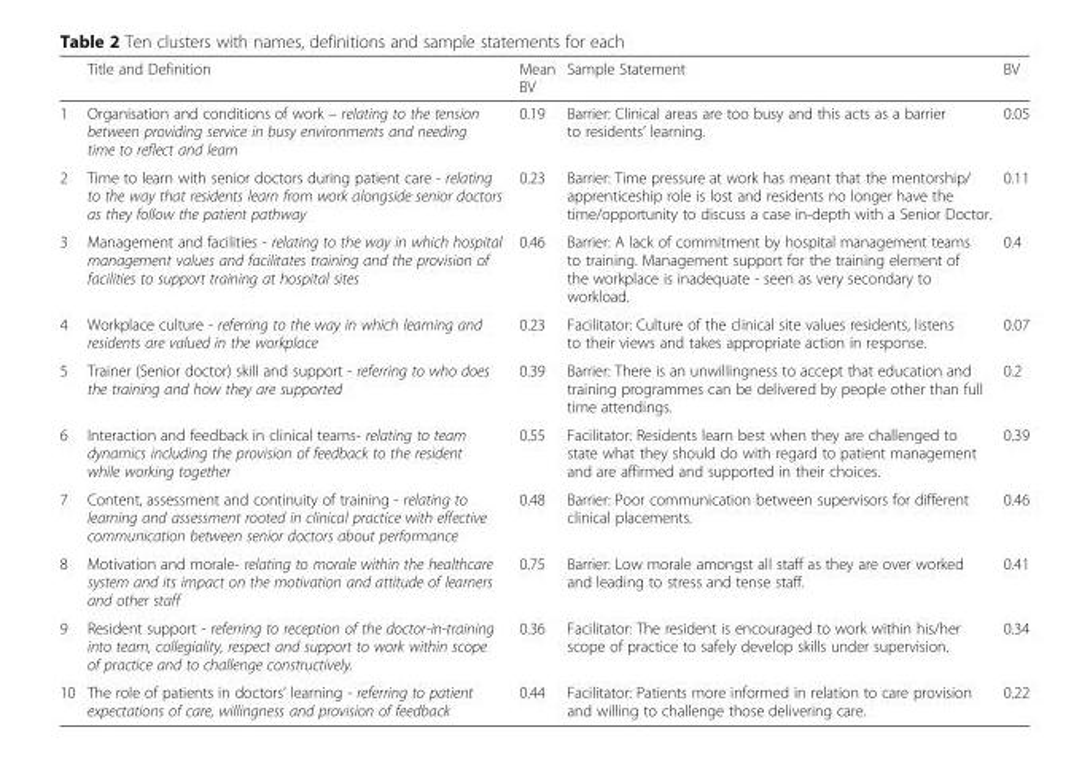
<table><thead><tr><td></td><td>Title and Definition</td><td>Mean BV</td><td>Sample Statement</td><td>BV</td></tr></thead><tbody><tr><td>1</td><td>Organisation and conditions of work – relating to the tension between providing service in busy environments and needing time to reflect and learn</td><td>0.19</td><td>Barrier: Clinical areas are too busy and this acts as a barrier to residents’ learning.</td><td>0.05</td></tr><tr><td>2</td><td>Time to learn with senior doctors during patient care - relating to the way that residents learn from work alongside senior doctors as they follow the patient pathway</td><td>0.23</td><td>Barrier: Time pressure at work has meant that the mentorship/ apprenticeship role is lost and residents no longer have the time/opportunity to discuss a case in-depth with a Senior Doctor.</td><td>0.11</td></tr><tr><td>3</td><td>Management and facilities - relating to the way in which hospital management values and facilitates training and the provision of facilities to support training at hospital sites</td><td>0.46</td><td>Barrier: A lack of commitment by hospital management teams to training. Management support for the training element of the workplace is inadequate - seen as very secondary to workload.</td><td>0.4</td></tr><tr><td>4</td><td>Workplace culture - referring to the way in which learning and residents are valued in the workplace</td><td>0.23</td><td>Facilitator: Culture of the clinical site values residents, listens to their views and takes appropriate action in response.</td><td>0.07</td></tr><tr><td>5</td><td>Trainer (Senior doctor) skill and support - referring to who does the training and how they are supported</td><td>0.39</td><td>Barrier: There is an unwillingness to accept that education and training programmes can be delivered by people other than full time attendings.</td><td>0.2</td></tr><tr><td>6</td><td>Interaction and feedback in clinical teams- relating to team dynamics including the provision of feedback to the resident while working together</td><td>0.55</td><td>Facilitator: Residents learn best when they are challenged to state what they should do with regard to patient management and are affirmed and supported in their choices.</td><td>0.39</td></tr><tr><td>7</td><td>Content, assessment and continuity of training - relating to learning and assessment rooted in clinical practice with effective communication between senior doctors about performance</td><td>0.48</td><td>Barrier: Poor communication between supervisors for different clinical placements.</td><td>0.46</td></tr><tr><td>8</td><td>Motivation and morale- relating to morale within the healthcare system and its impact on the motivation and attitude of learners and other staff</td><td>0.75</td><td>Barrier: Low morale amongst all staff as they are over worked and leading to stress and tense staff.</td><td>0.41</td></tr><tr><td>9</td><td>Resident support - referring to reception of the doctor-in-training into team, collegiality, respect and support to work within scope of practice and to challenge constructively.</td><td>0.36</td><td>Facilitator: The resident is encouraged to work within his/her scope of practice to safely develop skills under supervision.</td><td>0.34</td></tr><tr><td>10</td><td>The role of patients in doctors’ learning - referring to patient expectations of care, willingness and provision of feedback</td><td>0.44</td><td>Facilitator: Patients more informed in relation to care provision and willing to challenge those delivering care.</td><td>0.22</td></tr></tbody></table>